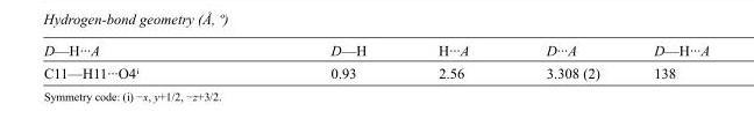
<table><tbody><tr><td>D—H···A</td><td>D—H</td><td>H···A</td><td>D···A</td><td>D—H···A</td></tr><tr><td>C11—H11···O4<sup>i</sup></td><td>0.93</td><td>2.56</td><td>3.308 (2)</td><td>138</td></tr></tbody></table>